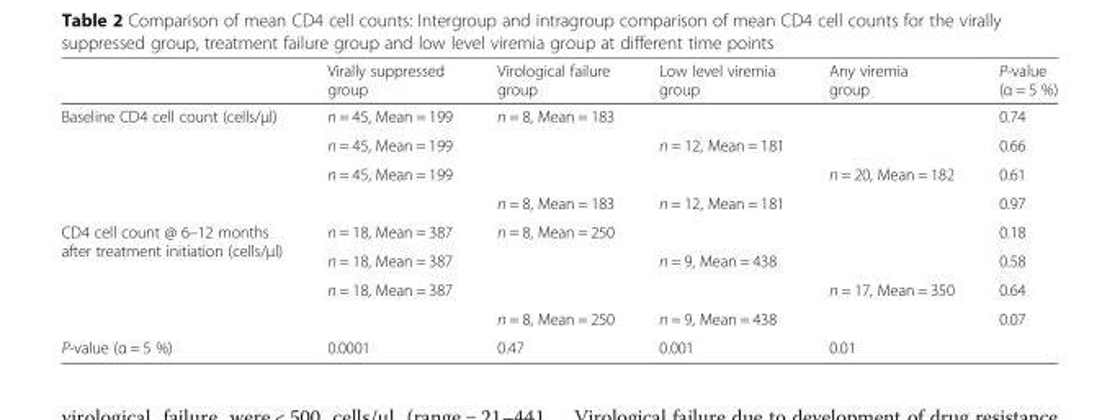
<table><thead><tr><td></td><td>Virally suppressed group</td><td>Virological failure group</td><td>Low level viremia group</td><td>Any viremia group</td><td>P-value (α = 5 %)</td></tr></thead><tbody><tr><td rowspan="4">Baseline CD4 cell count (cells/μl)</td><td>n = 45, Mean = 199</td><td>n = 8, Mean = 183</td><td></td><td></td><td>0.74</td></tr><tr><td>n = 45, Mean = 199</td><td></td><td>n = 12, Mean = 181</td><td></td><td>0.66</td></tr><tr><td>n = 45, Mean = 199</td><td></td><td></td><td>n = 20, Mean = 182</td><td>0.61</td></tr><tr><td></td><td>n = 8, Mean = 183</td><td>n = 12, Mean = 181</td><td></td><td>0.97</td></tr><tr><td rowspan="4">CD4 cell count @ 6–12 months after treatment initiation (cells/μl)</td><td>n = 18, Mean = 387</td><td>n = 8, Mean = 250</td><td></td><td></td><td>0.18</td></tr><tr><td>n = 18, Mean = 387</td><td></td><td>n = 9, Mean = 438</td><td></td><td>0.58</td></tr><tr><td>n = 18, Mean = 387</td><td></td><td></td><td>n = 17, Mean = 350</td><td>0.64</td></tr><tr><td></td><td>n = 8, Mean = 250</td><td>n = 9, Mean = 438</td><td></td><td>0.07</td></tr><tr><td>P-value (α = 5 %)</td><td>0.0001</td><td>0.47</td><td>0.001</td><td>0.01</td><td></td></tr></tbody></table>